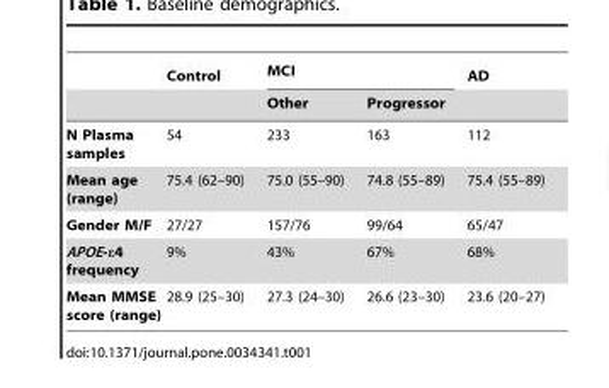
<table><thead><tr><td rowspan="2"></td><td rowspan="2">Control</td><td colspan="2">MCI</td><td rowspan="2">AD</td></tr><tr><td>Other</td><td>Progressor</td></tr></thead><tbody><tr><td>N Plasma samples</td><td>54</td><td>233</td><td>163</td><td>112</td></tr><tr><td>Mean age (range)</td><td>75.4 (62–90)</td><td>75.0 (55–90)</td><td>74.8 (55–89)</td><td>75.4 (55–89)</td></tr><tr><td>Gender M/F</td><td>27/27</td><td>157/76</td><td>99/64</td><td>65/47</td></tr><tr><td>APOE-ε4 frequency</td><td>9%</td><td>43%</td><td>67%</td><td>68%</td></tr><tr><td>Mean MMSE score (range)</td><td>28.9 (25–30)</td><td>27.3 (24–30)</td><td>26.6 (23–30)</td><td>23.6 (20–27)</td></tr></tbody></table>